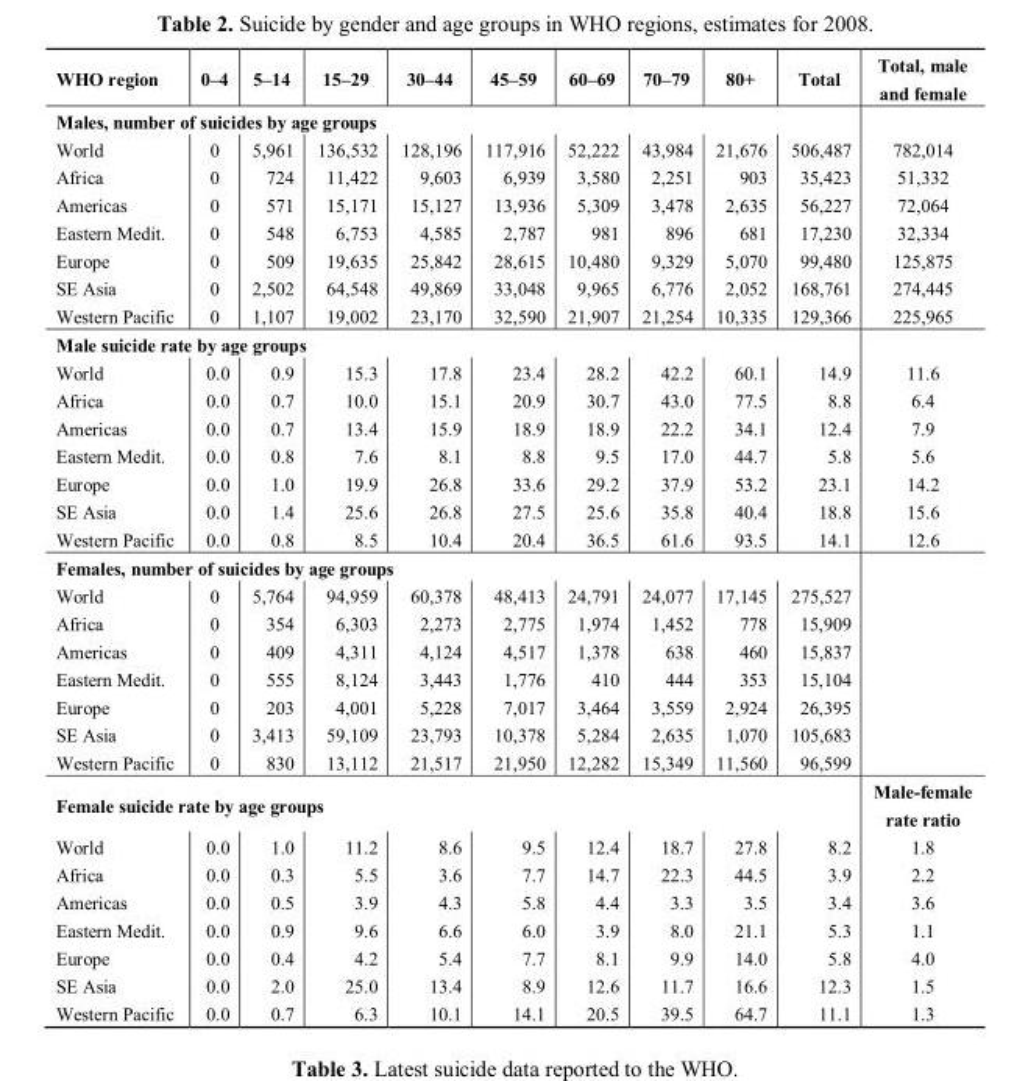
<table><thead><tr><td>WHO region</td><td>0–4</td><td>5–14</td><td>15–29</td><td>30–44</td><td>45–59</td><td>60–69</td><td>70–79</td><td>80+</td><td>Total</td><td>Total, male and female</td></tr></thead><tbody><tr><td colspan="11">Males, number of suicides by age groups</td></tr><tr><td>World</td><td>0</td><td>5,961</td><td>136,532</td><td>128,196</td><td>117,916</td><td>52,222</td><td>43,984</td><td>21,676</td><td>506,487</td><td>782,014</td></tr><tr><td>Africa</td><td>0</td><td>724</td><td>11,422</td><td>9,603</td><td>6,939</td><td>3,580</td><td>2,251</td><td>903</td><td>35,423</td><td>51,332</td></tr><tr><td>Americas</td><td>0</td><td>571</td><td>15,171</td><td>15,127</td><td>13,936</td><td>5,309</td><td>3,478</td><td>2,635</td><td>56,227</td><td>72,064</td></tr><tr><td>Eastern Medit.</td><td>0</td><td>548</td><td>6,753</td><td>4,585</td><td>2,787</td><td>981</td><td>896</td><td>681</td><td>17,230</td><td>32,334</td></tr><tr><td>Europe</td><td>0</td><td>509</td><td>19,635</td><td>25,842</td><td>28,615</td><td>10,480</td><td>9,329</td><td>5,070</td><td>99,480</td><td>125,875</td></tr><tr><td>SE Asia</td><td>0</td><td>2,502</td><td>64,548</td><td>49,869</td><td>33,048</td><td>9,965</td><td>6,776</td><td>2,052</td><td>168,761</td><td>274,445</td></tr><tr><td>Western Pacific</td><td>0</td><td>1,107</td><td>19,002</td><td>23,170</td><td>32,590</td><td>21,907</td><td>21,254</td><td>10,335</td><td>129,366</td><td>225,965</td></tr><tr><td colspan="11">Male suicide rate by age groups</td></tr><tr><td>World</td><td>0.0</td><td>0.9</td><td>15.3</td><td>17.8</td><td>23.4</td><td>28.2</td><td>42.2</td><td>60.1</td><td>14.9</td><td>11.6</td></tr><tr><td>Africa</td><td>0.0</td><td>0.7</td><td>10.0</td><td>15.1</td><td>20.9</td><td>30.7</td><td>43.0</td><td>77.5</td><td>8.8</td><td>6.4</td></tr><tr><td>Americas</td><td>0.0</td><td>0.7</td><td>13.4</td><td>15.9</td><td>18.9</td><td>18.9</td><td>22.2</td><td>34.1</td><td>12.4</td><td>7.9</td></tr><tr><td>Eastern Medit.</td><td>0.0</td><td>0.8</td><td>7.6</td><td>8.1</td><td>8.8</td><td>9.5</td><td>17.0</td><td>44.7</td><td>5.8</td><td>5.6</td></tr><tr><td>Europe</td><td>0.0</td><td>1.0</td><td>19.9</td><td>26.8</td><td>33.6</td><td>29.2</td><td>37.9</td><td>53.2</td><td>23.1</td><td>14.2</td></tr><tr><td>SE Asia</td><td>0.0</td><td>1.4</td><td>25.6</td><td>26.8</td><td>27.5</td><td>25.6</td><td>35.8</td><td>40.4</td><td>18.8</td><td>15.6</td></tr><tr><td>Western Pacific</td><td>0.0</td><td>0.8</td><td>8.5</td><td>10.4</td><td>20.4</td><td>36.5</td><td>61.6</td><td>93.5</td><td>14.1</td><td>12.6</td></tr><tr><td colspan="11">Females, number of suicides by age groups</td></tr><tr><td>World</td><td>0</td><td>5,764</td><td>94,959</td><td>60,378</td><td>48,413</td><td>24,791</td><td>24,077</td><td>17,145</td><td>275,527</td><td></td></tr><tr><td>Africa</td><td>0</td><td>354</td><td>6,303</td><td>2,273</td><td>2,775</td><td>1,974</td><td>1,452</td><td>778</td><td>15,909</td><td></td></tr><tr><td>Americas</td><td>0</td><td>409</td><td>4,311</td><td>4,124</td><td>4,517</td><td>1,378</td><td>638</td><td>460</td><td>15,837</td><td></td></tr><tr><td>Eastern Medit.</td><td>0</td><td>555</td><td>8,124</td><td>3,443</td><td>1,776</td><td>410</td><td>444</td><td>353</td><td>15,104</td><td></td></tr><tr><td>Europe</td><td>0</td><td>203</td><td>4,001</td><td>5,228</td><td>7,017</td><td>3,464</td><td>3,559</td><td>2,924</td><td>26,395</td><td></td></tr><tr><td>SE Asia</td><td>0</td><td>3,413</td><td>59,109</td><td>23,793</td><td>10,378</td><td>5,284</td><td>2,635</td><td>1,070</td><td>105,683</td><td></td></tr><tr><td>Western Pacific</td><td>0</td><td>830</td><td>13,112</td><td>21,517</td><td>21,950</td><td>12,282</td><td>15,349</td><td>11,560</td><td>96,599</td><td></td></tr><tr><td colspan="10">Female suicide rate by age groups</td><td>Male-female rate ratio</td></tr><tr><td>World</td><td>0.0</td><td>1.0</td><td>11.2</td><td>8.6</td><td>9.5</td><td>12.4</td><td>18.7</td><td>27.8</td><td>8.2</td><td>1.8</td></tr><tr><td>Africa</td><td>0.0</td><td>0.3</td><td>5.5</td><td>3.6</td><td>7.7</td><td>14.7</td><td>22.3</td><td>44.5</td><td>3.9</td><td>2.2</td></tr><tr><td>Americas</td><td>0.0</td><td>0.5</td><td>3.9</td><td>4.3</td><td>5.8</td><td>4.4</td><td>3.3</td><td>3.5</td><td>3.4</td><td>3.6</td></tr><tr><td>Eastern Medit.</td><td>0.0</td><td>0.9</td><td>9.6</td><td>6.6</td><td>6.0</td><td>3.9</td><td>8.0</td><td>21.1</td><td>5.3</td><td>1.1</td></tr><tr><td>Europe</td><td>0.0</td><td>0.4</td><td>4.2</td><td>5.4</td><td>7.7</td><td>8.1</td><td>9.9</td><td>14.0</td><td>5.8</td><td>4.0</td></tr><tr><td>SE Asia</td><td>0.0</td><td>2.0</td><td>25.0</td><td>13.4</td><td>8.9</td><td>12.6</td><td>11.7</td><td>16.6</td><td>12.3</td><td>1.5</td></tr><tr><td>Western Pacific</td><td>0.0</td><td>0.7</td><td>6.3</td><td>10.1</td><td>14.1</td><td>20.5</td><td>39.5</td><td>64.7</td><td>11.1</td><td>1.3</td></tr></tbody></table>